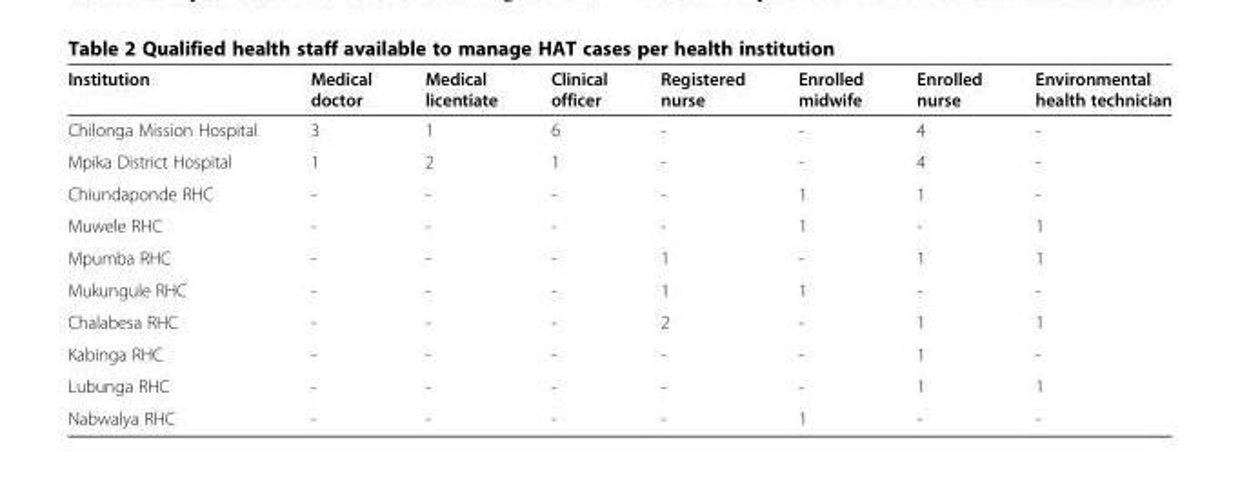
<table><thead><tr><td>Institution</td><td>Medical doctor</td><td>Medical licentiate</td><td>Clinical officer</td><td>Registered nurse</td><td>Enrolled midwife</td><td>Enrolled nurse</td><td>Environmental health technician</td></tr></thead><tbody><tr><td>Chilonga Mission Hospital</td><td>3</td><td>1</td><td>6</td><td>-</td><td>-</td><td>4</td><td>-</td></tr><tr><td>Mpika District Hospital</td><td>1</td><td>2</td><td>1</td><td>-</td><td>-</td><td>4</td><td>-</td></tr><tr><td>Chiundaponde RHC</td><td>-</td><td>-</td><td>-</td><td>-</td><td>1</td><td>1</td><td>-</td></tr><tr><td>Muwele RHC</td><td>-</td><td>-</td><td>-</td><td>-</td><td>1</td><td>-</td><td>1</td></tr><tr><td>Mpumba RHC</td><td>-</td><td>-</td><td>-</td><td>1</td><td>-</td><td>1</td><td>1</td></tr><tr><td>Mukungule RHC</td><td>-</td><td>-</td><td>-</td><td>1</td><td>1</td><td>-</td><td>-</td></tr><tr><td>Chalabesa RHC</td><td>-</td><td>-</td><td>-</td><td>2</td><td>-</td><td>1</td><td>1</td></tr><tr><td>Kabinga RHC</td><td>-</td><td>-</td><td>-</td><td>-</td><td>-</td><td>1</td><td>-</td></tr><tr><td>Lubunga RHC</td><td>-</td><td>-</td><td>-</td><td>-</td><td>-</td><td>1</td><td>1</td></tr><tr><td>Nabwalya RHC</td><td>-</td><td>-</td><td>-</td><td>-</td><td>1</td><td>-</td><td>-</td></tr></tbody></table>